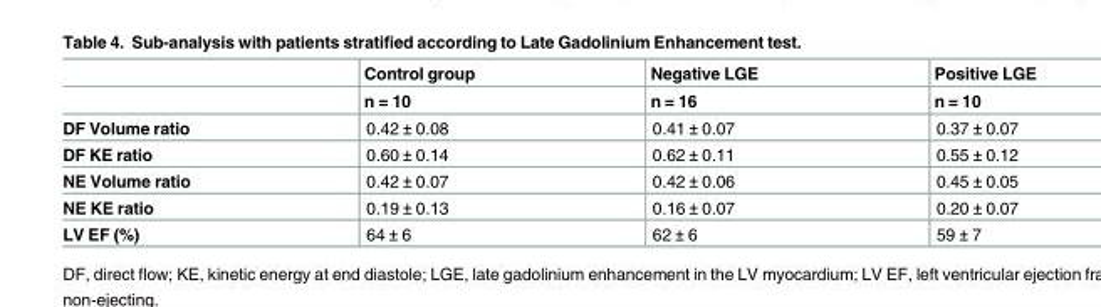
<table><thead><tr><td rowspan="2"></td><td rowspan="2">Control group n = 10</td><td rowspan="2">Negative LGE n = 16</td><td rowspan="2">Positive LGE n = 10</td></tr><tr></tr></thead><tbody><tr><td>DF Volume ratio</td><td>0.42 ± 0.08</td><td>0.41 ± 0.07</td><td>0.37 ± 0.07</td></tr><tr><td>DF KE ratio</td><td>0.60 ± 0.14</td><td>0.62 ± 0.11</td><td>0.55 ± 0.12</td></tr><tr><td>NE Volume ratio</td><td>0.42 ± 0.07</td><td>0.42 ± 0.06</td><td>0.45 ± 0.05</td></tr><tr><td>NE KE ratio</td><td>0.19 ± 0.13</td><td>0.16 ± 0.07</td><td>0.20 ± 0.07</td></tr><tr><td>LV EF (%)</td><td>64 ± 6</td><td>62 ± 6</td><td>59 ± 7</td></tr></tbody></table>